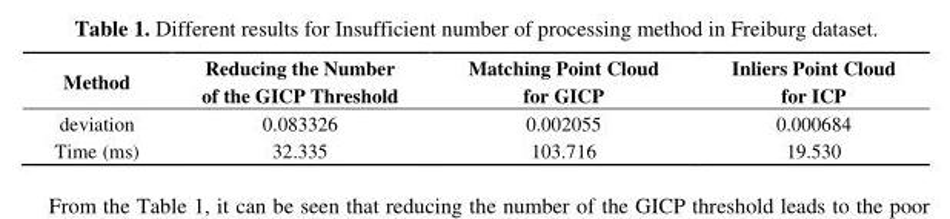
<table><thead><tr><td>Method</td><td>Reducing the Number of the GICP Threshold</td><td>Matching Point Cloud for GICP</td><td>Inliers Point Cloud for ICP</td></tr></thead><tbody><tr><td>deviation</td><td>0.083326</td><td>0.002055</td><td>0.000684</td></tr><tr><td>Time (ms)</td><td>32.335</td><td>103.716</td><td>19.530</td></tr></tbody></table>